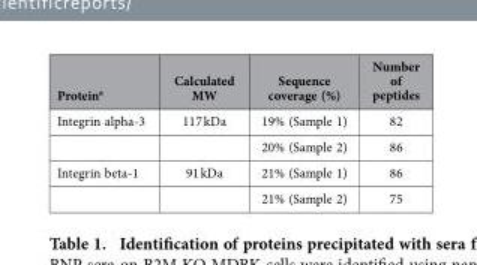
<table><thead><tr><td>Protein<sup>a</sup></td><td>Calculated MW</td><td>Sequence coverage (%)</td><td>Number of peptides</td></tr></thead><tbody><tr><td rowspan="2">Integrin alpha-3</td><td>117 kDa</td><td>19% (Sample 1)</td><td>82</td></tr><tr><td></td><td>20% (Sample 2)</td><td>86</td></tr><tr><td rowspan="2">Integrin beta-1</td><td>91 kDa</td><td>21% (Sample 1)</td><td>86</td></tr><tr><td></td><td>21% (Sample 2)</td><td>75</td></tr></tbody></table>